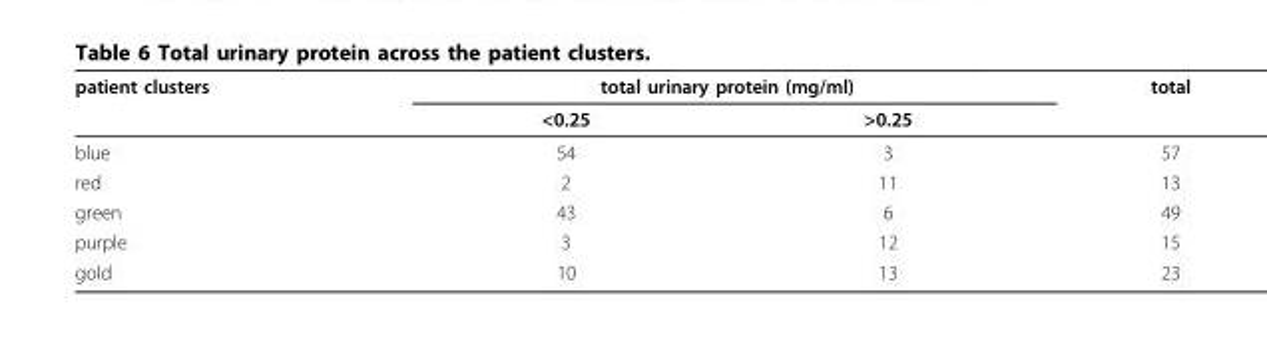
<table><thead><tr><td rowspan="2">patient clusters</td><td colspan="2">total urinary protein (mg/ml)</td><td rowspan="2">total</td></tr><tr><td>&lt;0.25</td><td>&gt;0.25</td></tr></thead><tbody><tr><td>blue</td><td>54</td><td>3</td><td>57</td></tr><tr><td>red</td><td>2</td><td>11</td><td>13</td></tr><tr><td>green</td><td>43</td><td>6</td><td>49</td></tr><tr><td>purple</td><td>3</td><td>12</td><td>15</td></tr><tr><td>gold</td><td>10</td><td>13</td><td>23</td></tr></tbody></table>